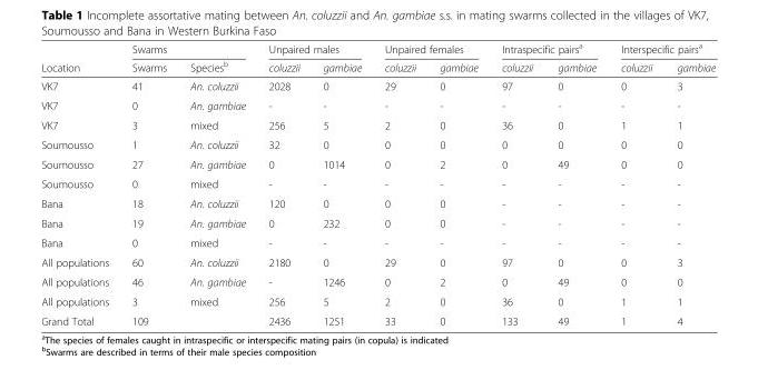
<table><thead><tr><td rowspan="2">Location</td><td colspan="2">Swarms</td><td colspan="2">Unpaired males</td><td colspan="2">Unpaired females</td><td colspan="2">Intraspecific pairs<sup>a</sup></td><td colspan="2">Interspecific pairs<sup>a</sup></td></tr><tr><td>Swarms</td><td>Species<sup>b</sup></td><td>coluzzii</td><td>gambiae</td><td>coluzzii</td><td>gambiae</td><td>coluzzii</td><td>gambiae</td><td>coluzzii</td><td>gambiae</td></tr></thead><tbody><tr><td>VK7</td><td>41</td><td>An. coluzzii</td><td>2028</td><td>0</td><td>29</td><td>0</td><td>97</td><td>0</td><td>0</td><td>3</td></tr><tr><td>VK7</td><td>0</td><td>An. gambiae</td><td>-</td><td>-</td><td>-</td><td>-</td><td>-</td><td>-</td><td>-</td><td>-</td></tr><tr><td>VK7</td><td>3</td><td>mixed</td><td>256</td><td>5</td><td>2</td><td>0</td><td>36</td><td>0</td><td>1</td><td>1</td></tr><tr><td>Soumousso</td><td>1</td><td>An. coluzzii</td><td>32</td><td>0</td><td>0</td><td>0</td><td>0</td><td>0</td><td>0</td><td>0</td></tr><tr><td>Soumousso</td><td>27</td><td>An. gambiae</td><td>0</td><td>1014</td><td>0</td><td>2</td><td>0</td><td>49</td><td>0</td><td>0</td></tr><tr><td>Soumousso</td><td>0</td><td>mixed</td><td>-</td><td>-</td><td>-</td><td>-</td><td>-</td><td>-</td><td>-</td><td>-</td></tr><tr><td>Bana</td><td>18</td><td>An. coluzzii</td><td>120</td><td>0</td><td>0</td><td>0</td><td>-</td><td>-</td><td>-</td><td>-</td></tr><tr><td>Bana</td><td>19</td><td>An. gambiae</td><td>0</td><td>232</td><td>0</td><td>0</td><td>-</td><td>-</td><td>-</td><td>-</td></tr><tr><td>Bana</td><td>0</td><td>mixed</td><td>-</td><td>-</td><td>-</td><td>-</td><td>-</td><td>-</td><td>-</td><td>-</td></tr><tr><td>All populations</td><td>60</td><td>An. coluzzii</td><td>2180</td><td>0</td><td>29</td><td>0</td><td>97</td><td>0</td><td>0</td><td>3</td></tr><tr><td>All populations</td><td>46</td><td>An. gambiae</td><td>-</td><td>1246</td><td>0</td><td>2</td><td>0</td><td>49</td><td>0</td><td>0</td></tr><tr><td>All populations</td><td>3</td><td>mixed</td><td>256</td><td>5</td><td>2</td><td>0</td><td>36</td><td>0</td><td>1</td><td>1</td></tr><tr><td>Grand Total</td><td>109</td><td></td><td>2436</td><td>1251</td><td>33</td><td>0</td><td>133</td><td>49</td><td>1</td><td>4</td></tr></tbody></table>